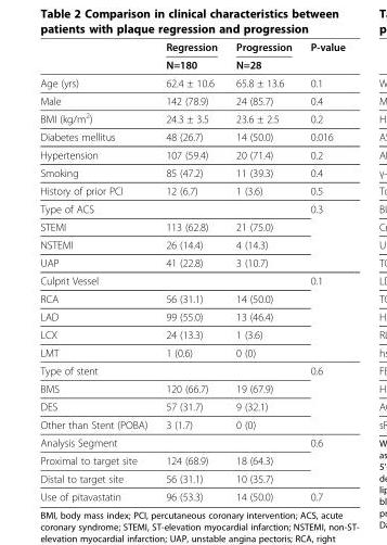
<table><thead><tr><td rowspan="2"></td><td rowspan="2">Regression N=180</td><td rowspan="2">Progression N=28</td><td rowspan="2">P-value</td></tr><tr></tr></thead><tbody><tr><td>Age (yrs)</td><td>62.4 ± 10.6</td><td>65.8 ± 13.6</td><td>0.1</td></tr><tr><td>Male</td><td>142 (78.9)</td><td>24 (85.7)</td><td>0.4</td></tr><tr><td>BMI (kg/m<sup>2</sup>)</td><td>24.3 ± 3.5</td><td>23.6 ± 2.5</td><td>0.2</td></tr><tr><td>Diabetes mellitus</td><td>48 (26.7)</td><td>14 (50.0)</td><td>0.016</td></tr><tr><td>Hypertension</td><td>107 (59.4)</td><td>20 (71.4)</td><td>0.2</td></tr><tr><td>Smoking</td><td>85 (47.2)</td><td>11 (39.3)</td><td>0.4</td></tr><tr><td>History of prior PCI</td><td>12 (6.7)</td><td>1 (3.6)</td><td>0.5</td></tr><tr><td colspan="3">Type of ACS</td><td rowspan="4">0.3</td></tr><tr><td>STEMI</td><td>113 (62.8)</td><td>21 (75.0)</td></tr><tr><td>NSTEMI</td><td>26 (14.4)</td><td>4 (14.3)</td></tr><tr><td>UAP</td><td>41 (22.8)</td><td>3 (10.7)</td></tr><tr><td colspan="3">Culprit Vessel</td><td rowspan="5">0.1</td></tr><tr><td>RCA</td><td>56 (31.1)</td><td>14 (50.0)</td></tr><tr><td>LAD</td><td>99 (55.0)</td><td>13 (46.4)</td></tr><tr><td>LCX</td><td>24 (13.3)</td><td>1 (3.6)</td></tr><tr><td>LMT</td><td>1 (0.6)</td><td>0 (0)</td></tr><tr><td>Type of stent</td><td></td><td></td><td>0.6</td></tr><tr><td>BMS</td><td>120 (66.7)</td><td>19 (67.9)</td><td></td></tr><tr><td>DES</td><td>57 (31.7)</td><td>9 (32.1)</td><td></td></tr><tr><td>Other than Stent (POBA)</td><td>3 (1.7)</td><td>0 (0)</td><td></td></tr><tr><td>Analysis Segment</td><td></td><td></td><td>0.6</td></tr><tr><td>Proximal to target site</td><td>124 (68.9)</td><td>18 (64.3)</td><td></td></tr><tr><td>Distal to target site</td><td>56 (31.1)</td><td>10 (35.7)</td><td></td></tr><tr><td>Use of pitavastatin</td><td>96 (53.3)</td><td>14 (50.0)</td><td>0.7</td></tr></tbody></table>